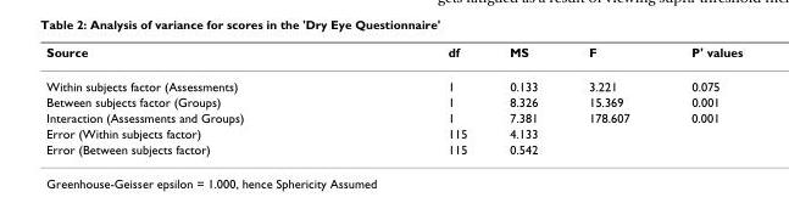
<table><thead><tr><td>Source</td><td>df</td><td>MS</td><td>F</td><td>P&#x27; values</td></tr></thead><tbody><tr><td>Within subjects factor (Assessments)</td><td>1</td><td>0.133</td><td>3.221</td><td>0.075</td></tr><tr><td>Between subjects factor (Groups)</td><td>1</td><td>8.326</td><td>15.369</td><td>0.001</td></tr><tr><td>Interaction (Assessments and Groups)</td><td>1</td><td>7.381</td><td>178.607</td><td>0.001</td></tr><tr><td>Error (Within subjects factor)</td><td>115</td><td>4.133</td><td></td><td></td></tr><tr><td>Error (Between subjects factor)</td><td>115</td><td>0.542</td><td></td><td></td></tr></tbody></table>